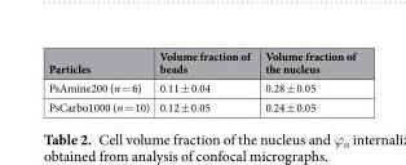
<table><thead><tr><td>Particles</td><td>Volume fraction of beads</td><td>Volume fraction of the nucleus</td></tr></thead><tbody><tr><td>PsAmine200 (n = 6)</td><td>0.11 ± 0.04</td><td>0.28 ± 0.05</td></tr><tr><td>PsCarbo1000 (n = 10)</td><td>0.12 ± 0.05</td><td>0.24 ± 0.05</td></tr></tbody></table>